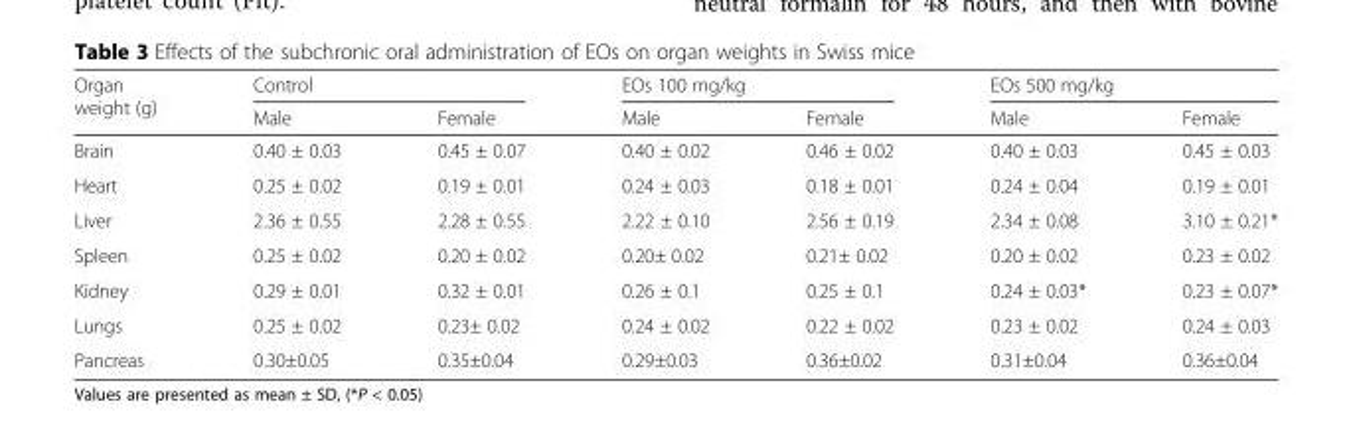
<table><thead><tr><td rowspan="2">Organ weight (g)</td><td colspan="2">Control</td><td colspan="2">EOs 100 mg/kg</td><td colspan="2">EOs 500 mg/kg</td></tr><tr><td>Male</td><td>Female</td><td>Male</td><td>Female</td><td>Male</td><td>Female</td></tr></thead><tbody><tr><td>Brain</td><td>0.40 ± 0.03</td><td>0.45 ± 0.07</td><td>0.40 ± 0.02</td><td>0.46 ± 0.02</td><td>0.40 ± 0.03</td><td>0.45 ± 0.03</td></tr><tr><td>Heart</td><td>0.25 ± 0.02</td><td>0.19 ± 0.01</td><td>0.24 ± 0.03</td><td>0.18 ± 0.01</td><td>0.24 ± 0.04</td><td>0.19 ± 0.01</td></tr><tr><td>Liver</td><td>2.36 ± 0.55</td><td>2.28 ± 0.55</td><td>2.22 ± 0.10</td><td>2.56 ± 0.19</td><td>2.34 ± 0.08</td><td>3.10 ± 0.21*</td></tr><tr><td>Spleen</td><td>0.25 ± 0.02</td><td>0.20 ± 0.02</td><td>0.20± 0.02</td><td>0.21± 0.02</td><td>0.20 ± 0.02</td><td>0.23 ± 0.02</td></tr><tr><td>Kidney</td><td>0.29 ± 0.01</td><td>0.32 ± 0.01</td><td>0.26 ± 0.1</td><td>0.25 ± 0.1</td><td>0.24 ± 0.03*</td><td>0.23 ± 0.07*</td></tr><tr><td>Lungs</td><td>0.25 ± 0.02</td><td>0.23± 0.02</td><td>0.24 ± 0.02</td><td>0.22 ± 0.02</td><td>0.23 ± 0.02</td><td>0.24 ± 0.03</td></tr><tr><td>Pancreas</td><td>0.30±0.05</td><td>0.35±0.04</td><td>0.29±0.03</td><td>0.36±0.02</td><td>0.31±0.04</td><td>0.36±0.04</td></tr></tbody></table>